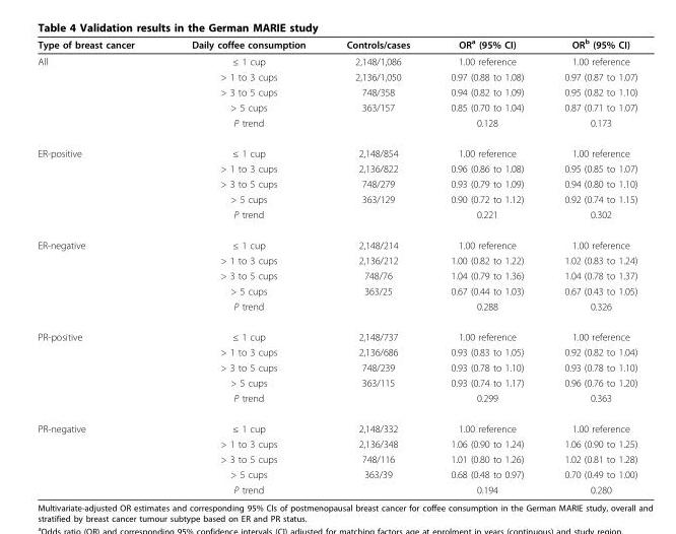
<table><thead><tr><td>Type of breast cancer</td><td>Daily coffee consumption</td><td>Controls/cases</td><td>OR<sup>a</sup> (95% CI)</td><td>OR<sup>b</sup> (95% CI)</td></tr></thead><tbody><tr><td rowspan="5">All</td><td>≤ 1 cup</td><td>2,148/1,086</td><td>1.00 reference</td><td>1.00 reference</td></tr><tr><td>&gt; 1 to 3 cups</td><td>2,136/1,050</td><td>0.97 (0.88 to 1.08)</td><td>0.97 (0.87 to 1.07)</td></tr><tr><td>&gt; 3 to 5 cups</td><td>748/358</td><td>0.94 (0.82 to 1.09)</td><td>0.95 (0.82 to 1.10)</td></tr><tr><td>&gt; 5 cups</td><td>363/157</td><td>0.85 (0.70 to 1.04)</td><td>0.87 (0.71 to 1.07)</td></tr><tr><td>P trend</td><td></td><td>0.128</td><td>0.173</td></tr><tr><td rowspan="5">ER-positive</td><td>≤ 1 cup</td><td>2,148/854</td><td>1.00 reference</td><td>1.00 reference</td></tr><tr><td>&gt; 1 to 3 cups</td><td>2,136/822</td><td>0.96 (0.86 to 1.08)</td><td>0.95 (0.85 to 1.07)</td></tr><tr><td>&gt; 3 to 5 cups</td><td>748/279</td><td>0.93 (0.79 to 1.09)</td><td>0.94 (0.80 to 1.10)</td></tr><tr><td>&gt; 5 cups</td><td>363/129</td><td>0.90 (0.72 to 1.12)</td><td>0.92 (0.74 to 1.15)</td></tr><tr><td>P trend</td><td></td><td>0.221</td><td>0.302</td></tr><tr><td rowspan="5">ER-negative</td><td>≤ 1 cup</td><td>2,148/214</td><td>1.00 reference</td><td>1.00 reference</td></tr><tr><td>&gt; 1 to 3 cups</td><td>2,136/212</td><td>1.00 (0.82 to 1.22)</td><td>1.02 (0.83 to 1.24)</td></tr><tr><td>&gt; 3 to 5 cups</td><td>748/76</td><td>1.04 (0.79 to 1.36)</td><td>1.04 (0.78 to 1.37)</td></tr><tr><td>&gt; 5 cups</td><td>363/25</td><td>0.67 (0.44 to 1.03)</td><td>0.67 (0.43 to 1.05)</td></tr><tr><td>P trend</td><td></td><td>0.288</td><td>0.326</td></tr><tr><td rowspan="5">PR-positive</td><td>≤ 1 cup</td><td>2,148/737</td><td>1.00 reference</td><td>1.00 reference</td></tr><tr><td>&gt; 1 to 3 cups</td><td>2,136/686</td><td>0.93 (0.83 to 1.05)</td><td>0.92 (0.82 to 1.04)</td></tr><tr><td>&gt; 3 to 5 cups</td><td>748/239</td><td>0.93 (0.78 to 1.10)</td><td>0.93 (0.78 to 1.10)</td></tr><tr><td>&gt; 5 cups</td><td>363/115</td><td>0.93 (0.74 to 1.17)</td><td>0.96 (0.76 to 1.20)</td></tr><tr><td>P trend</td><td></td><td>0.299</td><td>0.363</td></tr><tr><td rowspan="5">PR-negative</td><td>≤ 1 cup</td><td>2,148/332</td><td>1.00 reference</td><td>1.00 reference</td></tr><tr><td>&gt; 1 to 3 cups</td><td>2,136/348</td><td>1.06 (0.90 to 1.24)</td><td>1.06 (0.90 to 1.25)</td></tr><tr><td>&gt; 3 to 5 cups</td><td>748/116</td><td>1.01 (0.80 to 1.26)</td><td>1.02 (0.81 to 1.28)</td></tr><tr><td>&gt; 5 cups</td><td>363/39</td><td>0.68 (0.48 to 0.97)</td><td>0.70 (0.49 to 1.00)</td></tr><tr><td>P trend</td><td></td><td>0.194</td><td>0.280</td></tr></tbody></table>